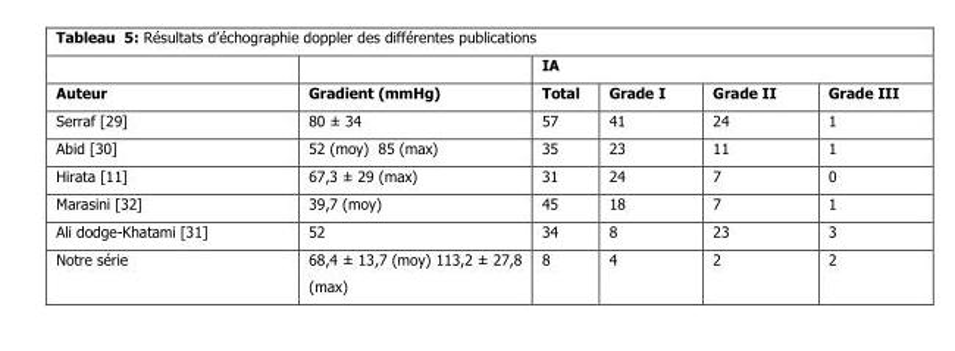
<table><thead><tr><td rowspan="2">Auteur</td><td rowspan="2">Gradient (mmHg)</td><td colspan="4">IA</td></tr><tr><td>Total</td><td>Grade I</td><td>Grade II</td><td>Grade III</td></tr></thead><tbody><tr><td>Serraf [29]</td><td>80 ± 34</td><td>57</td><td>41</td><td>24</td><td>1</td></tr><tr><td>Abid [30]</td><td>52 (moy) 85 (max)</td><td>35</td><td>23</td><td>11</td><td>1</td></tr><tr><td>Hirata [11]</td><td>67,3 ± 29 (max)</td><td>31</td><td>24</td><td>7</td><td>0</td></tr><tr><td>Marasini [32]</td><td>39,7 (moy)</td><td>45</td><td>18</td><td>7</td><td>1</td></tr><tr><td>Ali dodge-Khatami [31]</td><td>52</td><td>34</td><td>8</td><td>23</td><td>3</td></tr><tr><td>Notre série</td><td>68,4 ± 13,7 (moy) 113,2 ± 27,8 (max)</td><td>8</td><td>4</td><td>2</td><td>2</td></tr></tbody></table>